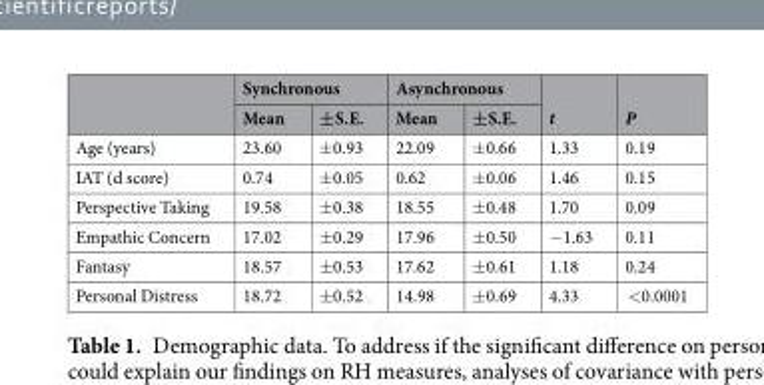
<table><thead><tr><td rowspan="2"></td><td colspan="2">Synchronous</td><td colspan="2">Asynchronous</td><td rowspan="2">t</td><td rowspan="2">P</td></tr><tr><td>Mean</td><td>±S.E.</td><td>Mean</td><td>±S.E.</td></tr></thead><tbody><tr><td>Age (years)</td><td>23.60</td><td>±0.93</td><td>22.09</td><td>±0.66</td><td>1.33</td><td>0.19</td></tr><tr><td>IAT (d score)</td><td>0.74</td><td>±0.05</td><td>0.62</td><td>±0.06</td><td>1.46</td><td>0.15</td></tr><tr><td>Perspective Taking</td><td>19.58</td><td>±0.38</td><td>18.55</td><td>±0.48</td><td>1.70</td><td>0.09</td></tr><tr><td>Empathic Concern</td><td>17.02</td><td>±0.29</td><td>17.96</td><td>±0.50</td><td>−1.63</td><td>0.11</td></tr><tr><td>Fantasy</td><td>18.57</td><td>±0.53</td><td>17.62</td><td>±0.61</td><td>1.18</td><td>0.24</td></tr><tr><td>Personal Distress</td><td>18.72</td><td>±0.52</td><td>14.98</td><td>±0.69</td><td>4.33</td><td>&lt;0.0001</td></tr></tbody></table>